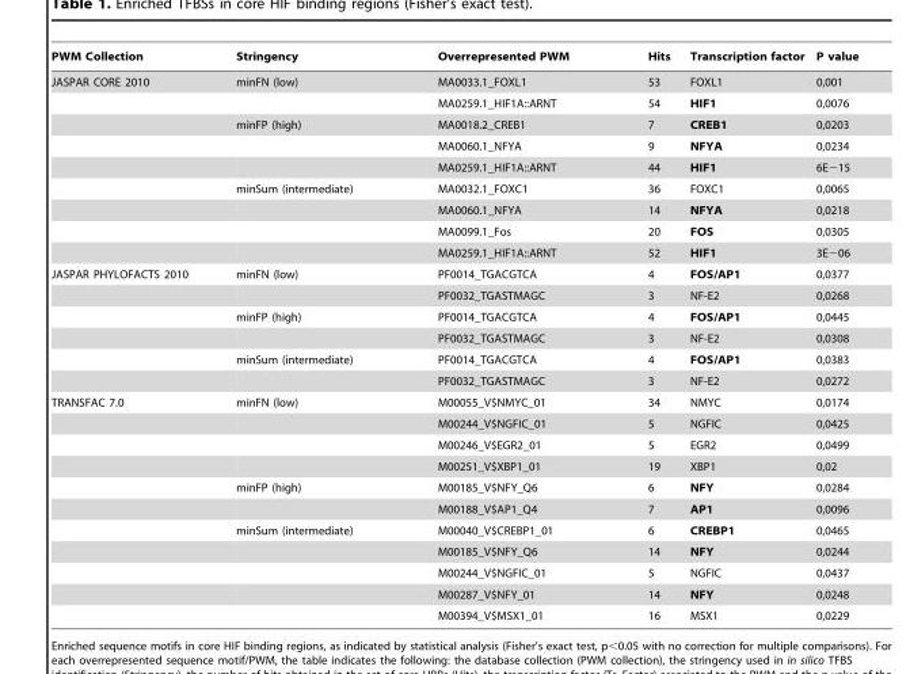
<table><thead><tr><td>PWM Collection</td><td>Stringency</td><td>Overrepresented PWM</td><td>Hits</td><td>Transcription factor</td><td>P value</td></tr></thead><tbody><tr><td rowspan="9">JASPAR CORE 2010</td><td>minFN (low)</td><td>MA0033.1_FOXL1</td><td>53</td><td>FOXL1</td><td>0,001</td></tr><tr><td></td><td>MA0259.1_HIF1A::ARNT</td><td>54</td><td>HIF1</td><td>0,0076</td></tr><tr><td>minFP (high)</td><td>MA0018.2_CREB1</td><td>7</td><td>CREB1</td><td>0,0203</td></tr><tr><td></td><td>MA0060.1_NFYA</td><td>9</td><td>NFYA</td><td>0,0234</td></tr><tr><td></td><td>MA0259.1_HIF1A::ARNT</td><td>44</td><td>HIF1</td><td>6E−15</td></tr><tr><td>minSum (intermediate)</td><td>MA0032.1_FOXC1</td><td>36</td><td>FOXC1</td><td>0,0065</td></tr><tr><td></td><td>MA0060.1_NFYA</td><td>14</td><td>NFYA</td><td>0,0218</td></tr><tr><td></td><td>MA0099.1_Fos</td><td>20</td><td>FOS</td><td>0,0305</td></tr><tr><td></td><td>MA0259.1_HIF1A::ARNT</td><td>52</td><td>HIF1</td><td>3E−06</td></tr><tr><td rowspan="6">JASPAR PHYLOFACTS 2010</td><td>minFN (low)</td><td>PF0014_TGACGTCA</td><td>4</td><td>FOS/AP1</td><td>0,0377</td></tr><tr><td></td><td>PF0032_TGASTMAGC</td><td>3</td><td>NF-E2</td><td>0,0268</td></tr><tr><td>minFP (high)</td><td>PF0014_TGACGTCA</td><td>4</td><td>FOS/AP1</td><td>0,0445</td></tr><tr><td></td><td>PF0032_TGASTMAGC</td><td>3</td><td>NF-E2</td><td>0,0308</td></tr><tr><td>minSum (intermediate)</td><td>PF0014_TGACGTCA</td><td>4</td><td>FOS/AP1</td><td>0,0383</td></tr><tr><td></td><td>PF0032_TGASTMAGC</td><td>3</td><td>NF-E2</td><td>0,0272</td></tr><tr><td rowspan="11">TRANSFAC 7.0</td><td>minFN (low)</td><td>M00055_V$NMYC_01</td><td>34</td><td>NMYC</td><td>0,0174</td></tr><tr><td></td><td>M00244_V$NGFIC_01</td><td>5</td><td>NGFIC</td><td>0,0425</td></tr><tr><td></td><td>M00246_V$EGR2_01</td><td>5</td><td>EGR2</td><td>0,0499</td></tr><tr><td></td><td>M00251_V$XBP1_01</td><td>19</td><td>XBP1</td><td>0,02</td></tr><tr><td>minFP (high)</td><td>M00185_V$NFY_Q6</td><td>6</td><td>NFY</td><td>0,0284</td></tr><tr><td></td><td>M00188_V$AP1_Q4</td><td>7</td><td>AP1</td><td>0,0096</td></tr><tr><td>minSum (intermediate)</td><td>M00040_V$CREBP1_01</td><td>6</td><td>CREBP1</td><td>0,0465</td></tr><tr><td></td><td>M00185_V$NFY_Q6</td><td>14</td><td>NFY</td><td>0,0244</td></tr><tr><td></td><td>M00244_V$NGFIC_01</td><td>5</td><td>NGFIC</td><td>0,0437</td></tr><tr><td></td><td>M00287_V$NFY_01</td><td>14</td><td>NFY</td><td>0,0248</td></tr><tr><td></td><td>M00394_V$MSX1_01</td><td>16</td><td>MSX1</td><td>0,0229</td></tr></tbody></table>